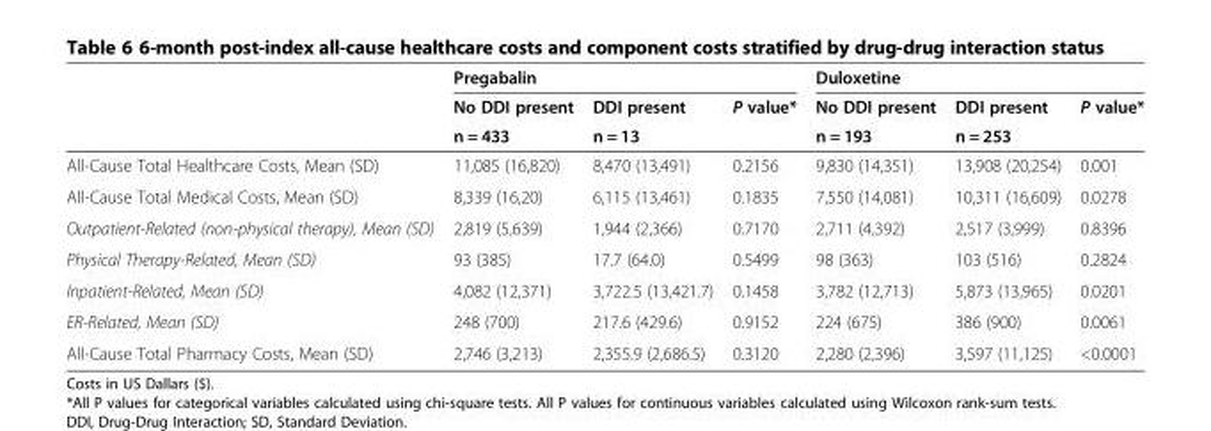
<table><thead><tr><td rowspan="3"></td><td colspan="3">Pregabalin</td><td colspan="3">Duloxetine</td></tr><tr><td rowspan="2">No DDI present n = 433</td><td rowspan="2">DDI present n = 13</td><td rowspan="2">P value*</td><td rowspan="2">No DDI present n = 193</td><td rowspan="2">DDI present n = 253</td><td rowspan="2">P value*</td></tr><tr></tr></thead><tbody><tr><td>All-Cause Total Healthcare Costs, Mean (SD)</td><td>11,085 (16,820)</td><td>8,470 (13,491)</td><td>0.2156</td><td>9,830 (14,351)</td><td>13,908 (20,254)</td><td>0.001</td></tr><tr><td>All-Cause Total Medical Costs, Mean (SD)</td><td>8,339 (16,20)</td><td>6,115 (13,461)</td><td>0.1835</td><td>7,550 (14,081)</td><td>10,311 (16,609)</td><td>0.0278</td></tr><tr><td>Outpatient-Related (non-physical therapy), Mean (SD)</td><td>2,819 (5,639)</td><td>1,944 (2,366)</td><td>0.7170</td><td>2,711 (4,392)</td><td>2,517 (3,999)</td><td>0.8396</td></tr><tr><td>Physical Therapy-Related, Mean (SD)</td><td>93 (385)</td><td>17.7 (64.0)</td><td>0.5499</td><td>98 (363)</td><td>103 (516)</td><td>0.2824</td></tr><tr><td>Inpatient-Related, Mean (SD)</td><td>4,082 (12,371)</td><td>3,722.5 (13,421.7)</td><td>0.1458</td><td>3,782 (12,713)</td><td>5,873 (13,965)</td><td>0.0201</td></tr><tr><td>ER-Related, Mean (SD)</td><td>248 (700)</td><td>217.6 (429.6)</td><td>0.9152</td><td>224 (675)</td><td>386 (900)</td><td>0.0061</td></tr><tr><td>All-Cause Total Pharmacy Costs, Mean (SD)</td><td>2,746 (3,213)</td><td>2,355.9 (2,686.5)</td><td>0.3120</td><td>2,280 (2,396)</td><td>3,597 (11,125)</td><td>&lt;0.0001</td></tr></tbody></table>